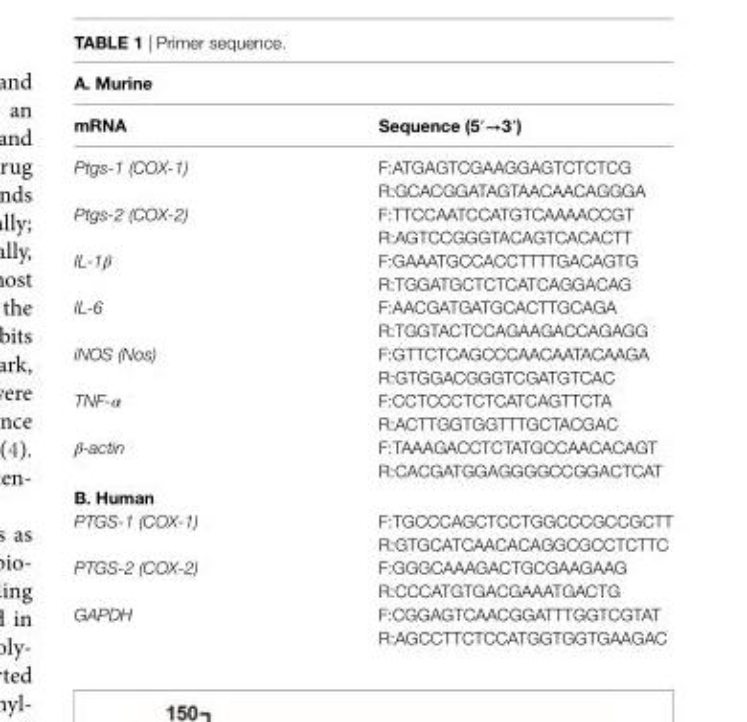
<table><thead><tr><td colspan="2">a. Murine</td></tr><tr><td>mrna</td><td>sequence (5′→3′)</td></tr></thead><tbody><tr><td rowspan="2">Ptgs-1 (COX-1)</td><td>F:ATGAGTCGAAGGAGTCTCTCG</td></tr><tr><td>R:GCACGGATAGTAACAACAGGGA</td></tr><tr><td rowspan="2">Ptgs-2 (COX-2)</td><td>F:TTCCAATCCATGTCAAAACCGT</td></tr><tr><td>R:AGTCCGGGTACAGTCACACTT</td></tr><tr><td rowspan="2">IL-1β</td><td>F:GAAATGCCACCTTTTGACAGTG</td></tr><tr><td>R:TGGATGCTCTCATCAGGACAG</td></tr><tr><td rowspan="2">IL-6</td><td>F:AACGATGATGCACTTGCAGA</td></tr><tr><td>R:TGGTACTCCAGAAGACCAGAGG</td></tr><tr><td rowspan="2">iNOS (Nos)</td><td>F:GTTCTCAGCCCAACAATACAAGA</td></tr><tr><td>R:GTGGACGGGTCGATGTCAC</td></tr><tr><td rowspan="2">TNF-α</td><td>F:CCTCCCTCTCATCAGTTCTA</td></tr><tr><td>R:ACTTGGTGGTTTGCTACGAC</td></tr><tr><td rowspan="2">β-actin</td><td>F:TAAAGACCTCTATGCCAACACAGT</td></tr><tr><td>R:CACGATGGAGGGGCCGGACTCAT</td></tr><tr><td colspan="2">b. human</td></tr><tr><td rowspan="2">PTGS-1 (COX-1)</td><td>F:TGCCCAGCTCCTGGCCCGCCGCTT</td></tr><tr><td>R:GTGCATCAACACAGGCGCCTCTTC</td></tr><tr><td rowspan="2">PTGS-2 (COX-2)</td><td>F:GGGCAAAGACTGCGAAGAAG</td></tr><tr><td>R:CCCATGTGACGAAATGACTG</td></tr><tr><td rowspan="2">GAPDH</td><td>F:CGGAGTCAACGGATTTGGTCGTAT</td></tr><tr><td>R:AGCCTTCTCCATGGTGGTGAAGAC</td></tr></tbody></table>